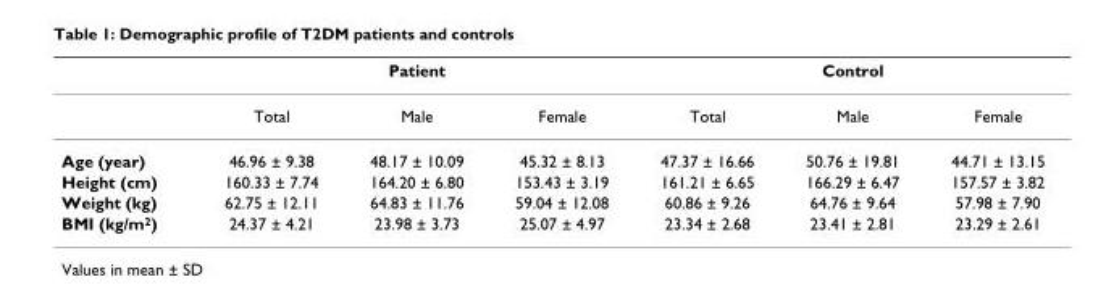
<table><thead><tr><td rowspan="2"></td><td colspan="3">Patient</td><td colspan="3">Control</td></tr><tr><td>Total</td><td>Male</td><td>Female</td><td>Total</td><td>Male</td><td>Female</td></tr></thead><tbody><tr><td>Age (year)</td><td>46.96 ± 9.38</td><td>48.17 ± 10.09</td><td>45.32 ± 8.13</td><td>47.37 ± 16.66</td><td>50.76 ± 19.81</td><td>44.71 ± 13.15</td></tr><tr><td>Height (cm)</td><td>160.33 ± 7.74</td><td>164.20 ± 6.80</td><td>153.43 ± 3.19</td><td>161.21 ± 6.65</td><td>166.29 ± 6.47</td><td>157.57 ± 3.82</td></tr><tr><td>Weight (kg)</td><td>62.75 ± 12.11</td><td>64.83 ± 11.76</td><td>59.04 ± 12.08</td><td>60.86 ± 9.26</td><td>64.76 ± 9.64</td><td>57.98 ± 7.90</td></tr><tr><td>BMI (kg/m<sup>2</sup>)</td><td>24.37 ± 4.21</td><td>23.98 ± 3.73</td><td>25.07 ± 4.97</td><td>23.34 ± 2.68</td><td>23.41 ± 2.81</td><td>23.29 ± 2.61</td></tr></tbody></table>